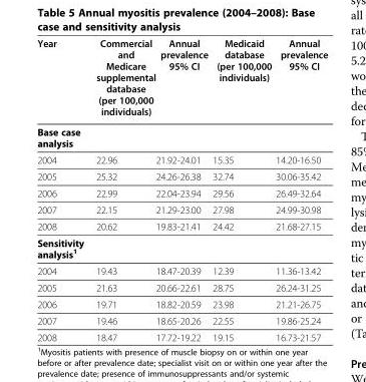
<table><thead><tr><td>Year</td><td>Commercial and Medicare supplemental database (per 100,000 individuals)</td><td>Annual prevalence 95% CI</td><td>Medicaid database (per 100,000 individuals)</td><td>Annual prevalence 95% CI</td></tr></thead><tbody><tr><td colspan="5">Base case analysis</td></tr><tr><td>2004</td><td>22.96</td><td>21.92-24.01</td><td>15.35</td><td>14.20-16.50</td></tr><tr><td>2005</td><td>25.32</td><td>24.26-26.38</td><td>32.74</td><td>30.06-35.42</td></tr><tr><td>2006</td><td>22.99</td><td>22.04-23.94</td><td>29.56</td><td>26.49-32.64</td></tr><tr><td>2007</td><td>22.15</td><td>21.29-23.00</td><td>27.98</td><td>24.99-30.98</td></tr><tr><td>2008</td><td>20.62</td><td>19.83-21.41</td><td>24.42</td><td>21.68-27.15</td></tr><tr><td colspan="5">Sensitivity analysis<sup>1</sup></td></tr><tr><td>2004</td><td>19.43</td><td>18.47-20.39</td><td>12.39</td><td>11.36-13.42</td></tr><tr><td>2005</td><td>21.63</td><td>20.66-22.61</td><td>28.75</td><td>26.24-31.25</td></tr><tr><td>2006</td><td>19.71</td><td>18.82-20.59</td><td>23.98</td><td>21.21-26.75</td></tr><tr><td>2007</td><td>19.46</td><td>18.65-20.26</td><td>22.55</td><td>19.86-25.24</td></tr><tr><td>2008</td><td>18.47</td><td>17.72-19.22</td><td>19.15</td><td>16.73-21.57</td></tr></tbody></table>